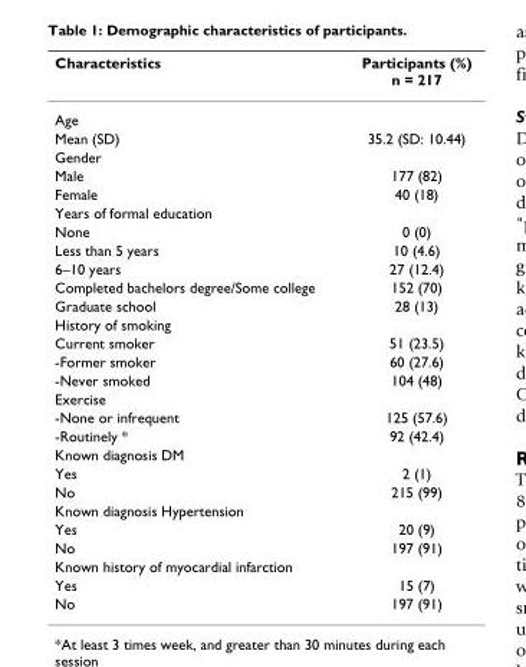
<table><thead><tr><td>Characteristics</td><td>Participants (%) n = 217</td></tr></thead><tbody><tr><td colspan="2">Age</td></tr><tr><td>Mean (SD)</td><td>35.2 (SD: 10.44)</td></tr><tr><td colspan="2">Gender</td></tr><tr><td>Male</td><td>177 (82)</td></tr><tr><td>Female</td><td>40 (18)</td></tr><tr><td colspan="2">Years of formal education</td></tr><tr><td>None</td><td>0 (0)</td></tr><tr><td>Less than 5 years</td><td>10 (4.6)</td></tr><tr><td>6–10 years</td><td>27 (12.4)</td></tr><tr><td>Completed bachelors degree/Some college</td><td>152 (70)</td></tr><tr><td>Graduate school</td><td>28 (13)</td></tr><tr><td colspan="2">History of smoking</td></tr><tr><td>Current smoker</td><td>51 (23.5)</td></tr><tr><td>-Former smoker</td><td>60 (27.6)</td></tr><tr><td>-Never smoked</td><td>104 (48)</td></tr><tr><td colspan="2">Exercise</td></tr><tr><td>-None or infrequent</td><td>125 (57.6)</td></tr><tr><td>-Routinely *</td><td>92 (42.4)</td></tr><tr><td colspan="2">Known diagnosis DM</td></tr><tr><td>Yes</td><td>2 (1)</td></tr><tr><td>No</td><td>215 (99)</td></tr><tr><td colspan="2">Known diagnosis Hypertension</td></tr><tr><td>Yes</td><td>20 (9)</td></tr><tr><td>No</td><td>197 (91)</td></tr><tr><td colspan="2">Known history of myocardial infarction</td></tr><tr><td>Yes</td><td>15 (7)</td></tr><tr><td>No</td><td>197 (91)</td></tr></tbody></table>